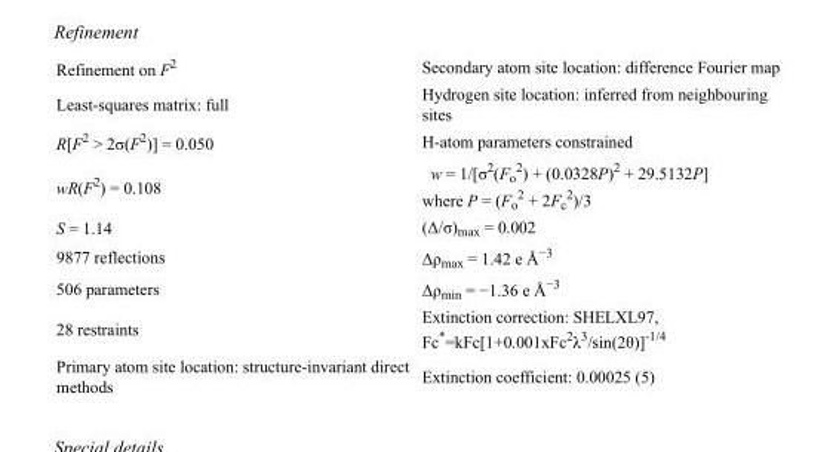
<table><tbody><tr><td>Refinement on F<sup>2</sup></td><td>Secondary atom site location: difference Fourier map</td></tr><tr><td>Least-squares matrix: full</td><td>Hydrogen site location: inferred from neighbouring sites</td></tr><tr><td>R[F<sup>2</sup> &gt; 2σ(F<sup>2</sup>)] = 0.050</td><td>H-atom parameters constrained</td></tr><tr><td>wR(F<sup>2</sup>) = 0.108</td><td>w = 1/[σ<sup>2</sup>(F<sub>o</sub> <sup>2</sup>) + (0.0328P)<sup>2</sup> + 29.5132P] where P = (F<sub>o</sub> <sup>2</sup> + 2F<sub>c</sub> <sup>2</sup>)/3</td></tr><tr><td>S = 1.14</td><td>(Δ/σ)<sub>max</sub> = 0.002</td></tr><tr><td>9877 reflections</td><td>Δρ<sub>max</sub> = 1.42 e Å<sup>−3</sup></td></tr><tr><td>506 parameters</td><td>Δρ<sub>min</sub> = −1.36 e Å<sup>−3</sup></td></tr><tr><td>28 restraints</td><td>Extinction correction: SHELXL97, Fc*=kFc[1+0.001xFc<sup>2</sup>λ<sup>3</sup>/sin(2θ)]<sup>-1/4</sup></td></tr><tr><td>Primary atom site location: structure-invariant direct methods</td><td>Extinction coefficient: 0.00025 (5)</td></tr></tbody></table>